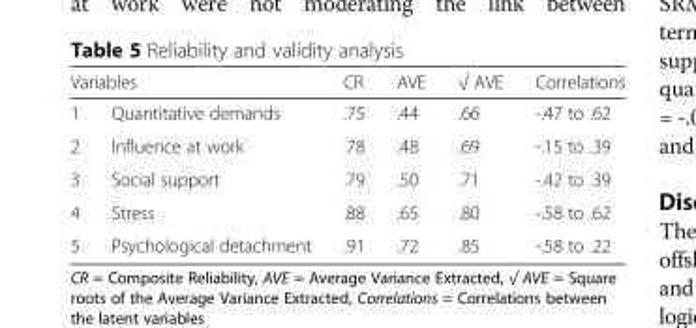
<table><thead><tr><td colspan="2">Variables</td><td rowspan="2">CR .75</td><td rowspan="2">AVE .44</td><td rowspan="2">√ AVE .66</td><td rowspan="2">Correlations -.47 to .62</td></tr><tr><td>1</td><td>Quantitative demands</td></tr></thead><tbody><tr><td>2</td><td>Influence at work</td><td>.78</td><td>.48</td><td>.69</td><td>-.15 to .39</td></tr><tr><td>3</td><td>Social support</td><td>.79</td><td>.50</td><td>.71</td><td>-.42 to .39</td></tr><tr><td>4</td><td>Stress</td><td>.88</td><td>.65</td><td>.80</td><td>-.58 to .62</td></tr><tr><td>5</td><td>Psychological detachment</td><td>.91</td><td>.72</td><td>.85</td><td>-.58 to .22</td></tr></tbody></table>